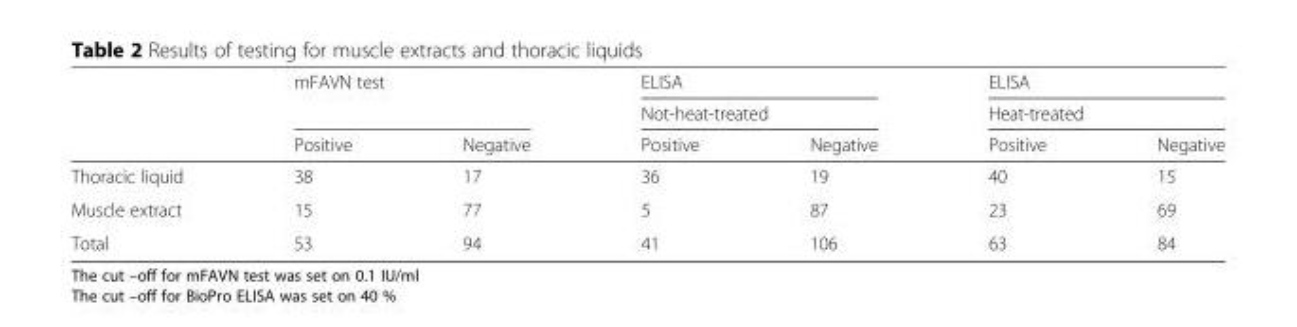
<table><thead><tr><td rowspan="3"></td><td rowspan="2" colspan="2">mFAVN test</td><td rowspan="2" colspan="2">ELISA Not-heat-treated</td><td rowspan="2" colspan="2">ELISA Heat-treated</td></tr><tr></tr><tr><td>Positive</td><td>Negative</td><td>Positive</td><td>Negative</td><td>Positive</td><td>Negative</td></tr></thead><tbody><tr><td>Thoracic liquid</td><td>38</td><td>17</td><td>36</td><td>19</td><td>40</td><td>15</td></tr><tr><td>Muscle extract</td><td>15</td><td>77</td><td>5</td><td>87</td><td>23</td><td>69</td></tr><tr><td>Total</td><td>53</td><td>94</td><td>41</td><td>106</td><td>63</td><td>84</td></tr></tbody></table>